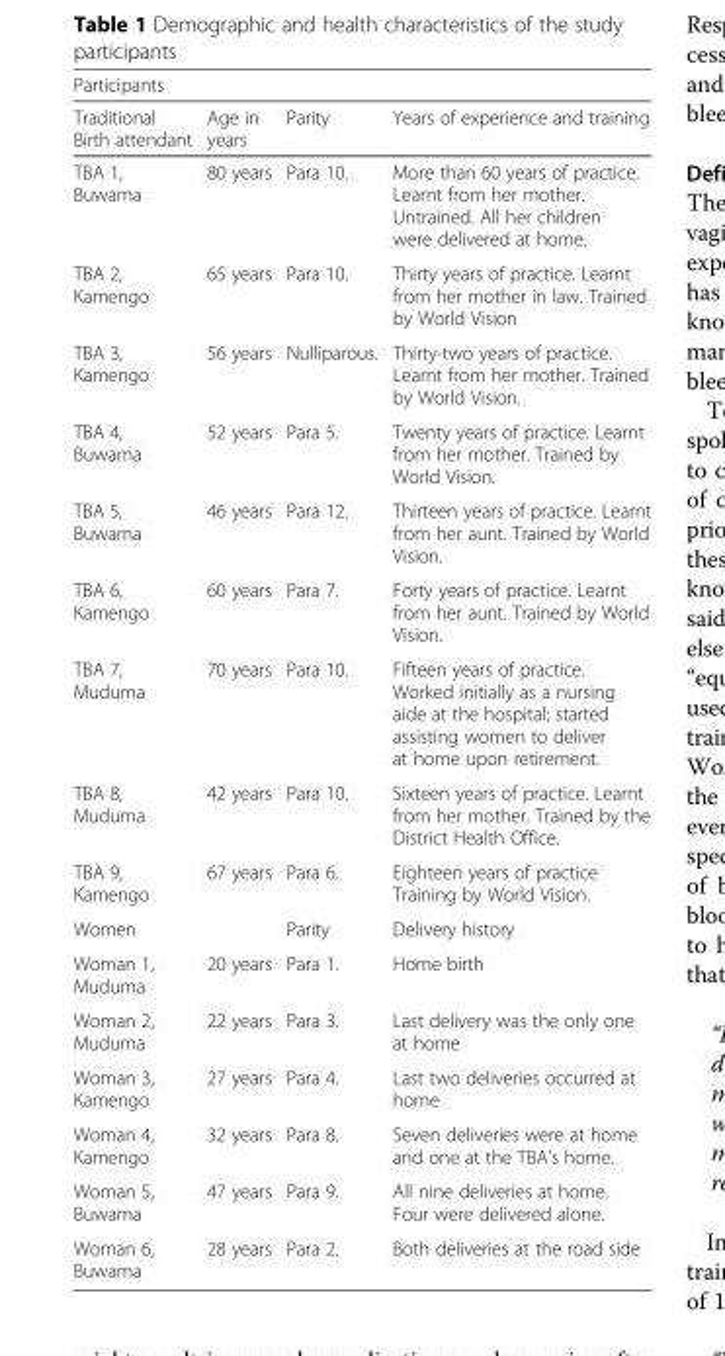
<table><thead><tr><td colspan="4">Participants</td></tr><tr><td>Traditional Birth attendant</td><td>Age in years</td><td>Parity</td><td>Years of experience and training</td></tr></thead><tbody><tr><td>TBA 1, Buwama</td><td>80 years</td><td>Para 10.</td><td>More than 60 years of practice. Learnt from her mother. Untrained. All her children were delivered at home.</td></tr><tr><td>TBA 2, Kamengo</td><td>65 years</td><td>Para 10.</td><td>Thirty years of practice. Learnt from her mother in law. Trained by World Vision</td></tr><tr><td>TBA 3, Kamengo</td><td>56 years</td><td>Nulliparous.</td><td>Thirty-two years of practice. Learnt from her mother. Trained by World Vision.</td></tr><tr><td>TBA 4, Buwama</td><td>52 years</td><td>Para 5.</td><td>Twenty years of practice. Learnt from her mother. Trained by World Vision.</td></tr><tr><td>TBA 5, Buwama</td><td>46 years</td><td>Para 12.</td><td>Thirteen years of practice. Learnt from her aunt. Trained by World Vision.</td></tr><tr><td>TBA 6, Kamengo</td><td>60 years</td><td>Para 7.</td><td>Forty years of practice. Learnt from her aunt. Trained by World Vision.</td></tr><tr><td>TBA 7, Muduma</td><td>70 years</td><td>Para 10.</td><td>Fifteen years of practice. Worked initially as a nursing aide at the hospital; started assisting women to deliver at home upon retirement.</td></tr><tr><td>TBA 8, Muduma</td><td>42 years</td><td>Para 10.</td><td>Sixteen years of practice. Learnt from her mother. Trained by the District Health Office.</td></tr><tr><td>TBA 9, Kamengo</td><td>67 years</td><td>Para 6.</td><td>Eighteen years of practice Training by World Vision.</td></tr><tr><td>Women</td><td></td><td>Parity</td><td>Delivery history</td></tr><tr><td>Woman 1, Muduma</td><td>20 years</td><td>Para 1.</td><td>Home birth</td></tr><tr><td>Woman 2, Muduma</td><td>22 years</td><td>Para 3.</td><td>Last delivery was the only one at home</td></tr><tr><td>Woman 3, Kamengo</td><td>27 years</td><td>Para 4.</td><td>Last two deliveries occurred at home</td></tr><tr><td>Woman 4, Kamengo</td><td>32 years</td><td>Para 8.</td><td>Seven deliveries were at home and one at the TBA’s home.</td></tr><tr><td>Woman 5, Buwama</td><td>47 years</td><td>Para 9.</td><td>All nine deliveries at home. Four were delivered alone.</td></tr><tr><td>Woman 6, Buwama</td><td>28 years</td><td>Para 2.</td><td>Both deliveries at the road side</td></tr></tbody></table>